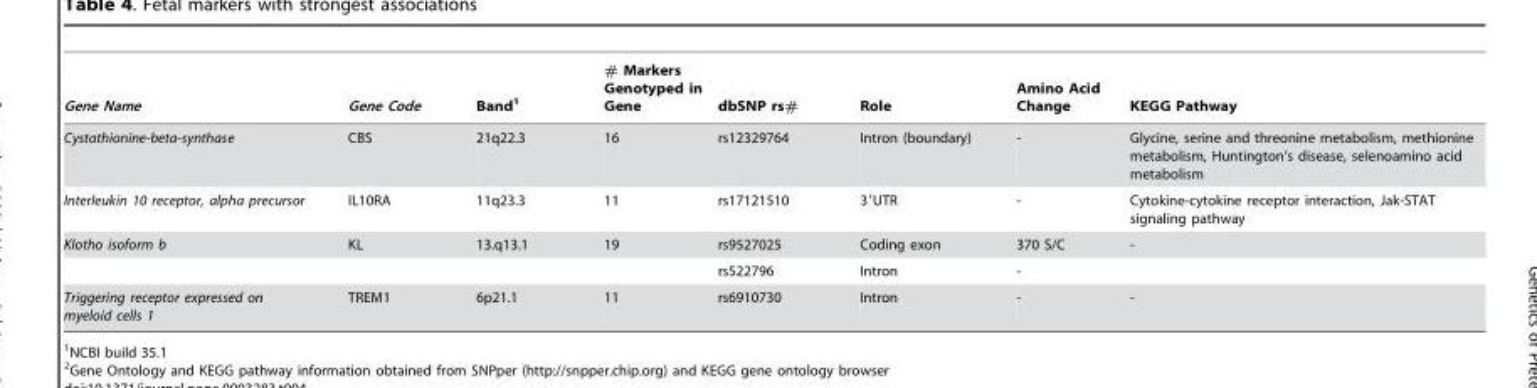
<table><thead><tr><td>Gene Name</td><td>Gene Code</td><td>Band<sup>1</sup></td><td># Markers Genotyped in Gene</td><td>dbSNP rs#</td><td>Role</td><td>Amino Acid Change</td><td>KEGG Pathway</td></tr></thead><tbody><tr><td>Cystathionine-beta-synthase</td><td>CBS</td><td>21q22.3</td><td>16</td><td>rs12329764</td><td>Intron (boundary)</td><td>-</td><td>Glycine, serine and threonine metabolism, methionine metabolism, Huntington’s disease, selenoamino acid metabolism</td></tr><tr><td>Interleukin 10 receptor, alpha precursor</td><td>IL10RA</td><td>11q23.3</td><td>11</td><td>rs17121510</td><td>3′UTR</td><td>-</td><td>Cytokine-cytokine receptor interaction, Jak-STAT signaling pathway</td></tr><tr><td rowspan="2">Klotho isoform b</td><td>KL</td><td>13.q13.1</td><td>19</td><td>rs9527025</td><td>Coding exon</td><td>370 S/C</td><td>-</td></tr><tr><td></td><td></td><td></td><td>rs522796</td><td>Intron</td><td>-</td><td></td></tr><tr><td>Triggering receptor expressed on myeloid cells 1</td><td>TREM1</td><td>6p21.1</td><td>11</td><td>rs6910730</td><td>Intron</td><td>-</td><td>-</td></tr></tbody></table>